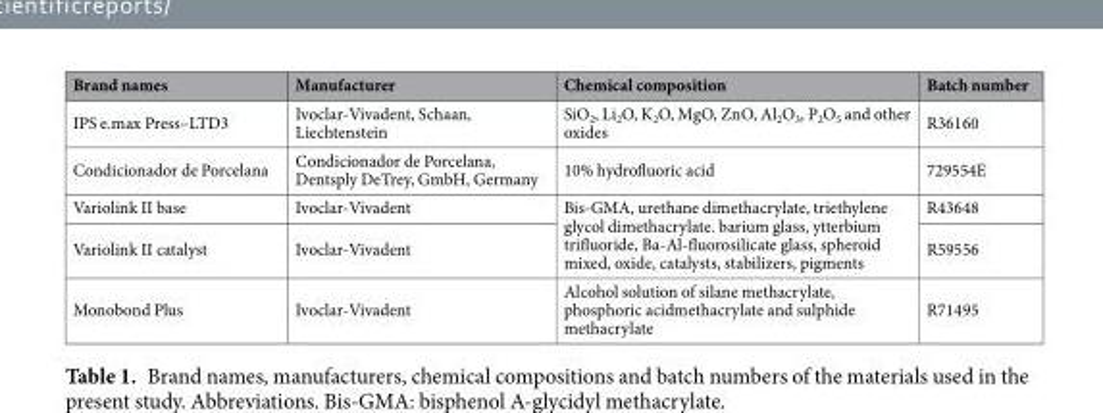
<table><thead><tr><td>Brand names</td><td>Manufacturer</td><td>Chemical composition</td><td>Batch number</td></tr></thead><tbody><tr><td>IPS e.max Press–LTD3</td><td>Ivoclar-Vivadent, Schaan, Liechtenstein</td><td>SiO<sub>2</sub>, Li<sub>2</sub>O, K<sub>2</sub>O, MgO, ZnO, Al<sub>2</sub>O<sub>3</sub>, P<sub>2</sub>O<sub>5</sub> and other oxides</td><td>R36160</td></tr><tr><td>Condicionador de Porcelana</td><td>Condicionador de Porcelana, Dentsply DeTrey, GmbH, Germany</td><td>10% hydrofluoric acid</td><td>729554E</td></tr><tr><td>Variolink II base</td><td>Ivoclar-Vivadent</td><td rowspan="2">Bis-GMA, urethane dimethacrylate, triethylene glycol dimethacrylate. barium glass, ytterbium trifluoride, Ba-Al-fluorosilicate glass, spheroid mixed, oxide, catalysts, stabilizers, pigments</td><td>R43648</td></tr><tr><td>Variolink II catalyst</td><td>Ivoclar-Vivadent</td><td>R59556</td></tr><tr><td>Monobond Plus</td><td>Ivoclar-Vivadent</td><td>Alcohol solution of silane methacrylate, phosphoric acidmethacrylate and sulphide methacrylate</td><td>R71495</td></tr></tbody></table>